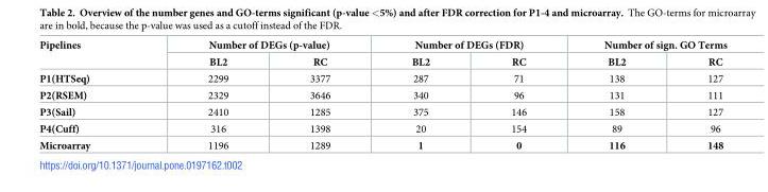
<table><thead><tr><td rowspan="2">Pipelines</td><td colspan="2">Number of DEGs (p-value)</td><td colspan="2">Number of DEGs (FDR)</td><td colspan="2">Number of sign. GO Terms</td></tr><tr><td>BL2</td><td>RC</td><td>BL2</td><td>RC</td><td>BL2</td><td>RC</td></tr></thead><tbody><tr><td>P1(HTSeq)</td><td>2299</td><td>3377</td><td>287</td><td>71</td><td>138</td><td>127</td></tr><tr><td>P2(RSEM)</td><td>2329</td><td>3646</td><td>340</td><td>96</td><td>131</td><td>111</td></tr><tr><td>P3(Sail)</td><td>2410</td><td>1285</td><td>375</td><td>146</td><td>158</td><td>127</td></tr><tr><td>P4(Cuff)</td><td>316</td><td>1398</td><td>20</td><td>154</td><td>89</td><td>96</td></tr><tr><td>Microarray</td><td>1196</td><td>1289</td><td>1</td><td>0</td><td>116</td><td>148</td></tr></tbody></table>